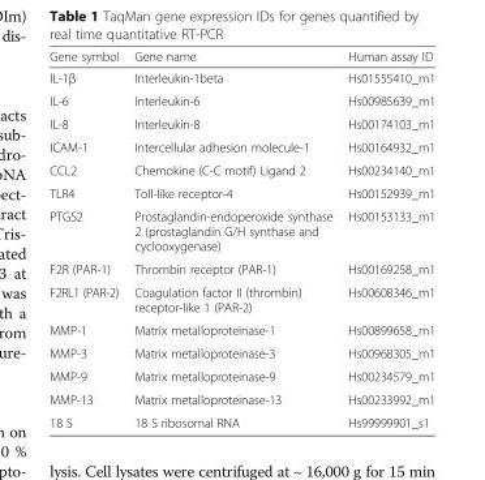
<table><thead><tr><td>Gene symbol</td><td>Gene name</td><td>Human assay ID</td></tr></thead><tbody><tr><td>IL-1β</td><td>Interleukin-1beta</td><td>Hs01555410_m1</td></tr><tr><td>IL-6</td><td>Interleukin-6</td><td>Hs00985639_m1</td></tr><tr><td>IL-8</td><td>Interleukin-8</td><td>Hs00174103_m1</td></tr><tr><td>ICAM-1</td><td>Intercellular adhesion molecule-1</td><td>Hs00164932_m1</td></tr><tr><td>CCL2</td><td>Chemokine (C-C motif) Ligand 2</td><td>Hs00234140_m1</td></tr><tr><td>TLR4</td><td>Toll-like receptor-4</td><td>Hs00152939_m1</td></tr><tr><td>PTGS2</td><td>Prostaglandin-endoperoxide synthase 2 (prostaglandin G/H synthase and cyclooxygenase)</td><td>Hs00153133_m1</td></tr><tr><td>F2R (PAR-1)</td><td>Thrombin receptor (PAR-1)</td><td>Hs00169258_m1</td></tr><tr><td>F2RL1 (PAR-2)</td><td>Coagulation factor II (thrombin) receptor-like 1 (PAR-2)</td><td>Hs00608346_m1</td></tr><tr><td>MMP-1</td><td>Matrix metalloproteinase-1</td><td>Hs00899658_m1</td></tr><tr><td>MMP-3</td><td>Matrix metalloproteinase-3</td><td>Hs00968305_m1</td></tr><tr><td>MMP-9</td><td>Matrix metalloproteinase-9</td><td>Hs00234579_m1</td></tr><tr><td>MMP-13</td><td>Matrix metalloproteinase-13</td><td>Hs00233992_m1</td></tr><tr><td>18 S</td><td>18 S ribosomal RNA</td><td>Hs99999901_s1</td></tr></tbody></table>